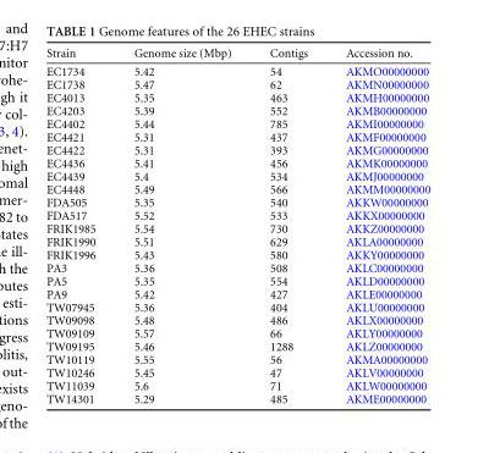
<table><thead><tr><td>Strain</td><td>Genome size (Mbp)</td><td>Contigs</td><td>Accession no.</td></tr></thead><tbody><tr><td>EC1734</td><td>5.42</td><td>54</td><td>AKMO00000000</td></tr><tr><td>EC1738</td><td>5.47</td><td>62</td><td>AKMN00000000</td></tr><tr><td>EC4013</td><td>5.35</td><td>463</td><td>AKMH00000000</td></tr><tr><td>EC4203</td><td>5.39</td><td>552</td><td>AKMB00000000</td></tr><tr><td>EC4402</td><td>5.44</td><td>785</td><td>AKMI00000000</td></tr><tr><td>EC4421</td><td>5.31</td><td>437</td><td>AKMF00000000</td></tr><tr><td>EC4422</td><td>5.31</td><td>393</td><td>AKMG00000000</td></tr><tr><td>EC4436</td><td>5.41</td><td>456</td><td>AKMK00000000</td></tr><tr><td>EC4439</td><td>5.4</td><td>534</td><td>AKMJ00000000</td></tr><tr><td>EC4448</td><td>5.49</td><td>566</td><td>AKMM00000000</td></tr><tr><td>FDA505</td><td>5.35</td><td>540</td><td>AKKW00000000</td></tr><tr><td>FDA517</td><td>5.52</td><td>533</td><td>AKKX00000000</td></tr><tr><td>FRIK1985</td><td>5.54</td><td>730</td><td>AKKZ00000000</td></tr><tr><td>FRIK1990</td><td>5.51</td><td>629</td><td>AKLA00000000</td></tr><tr><td>FRIK1996</td><td>5.43</td><td>580</td><td>AKKY00000000</td></tr><tr><td>PA3</td><td>5.36</td><td>508</td><td>AKLC00000000</td></tr><tr><td>PA5</td><td>5.35</td><td>554</td><td>AKLD00000000</td></tr><tr><td>PA9</td><td>5.42</td><td>427</td><td>AKLE00000000</td></tr><tr><td>TW07945</td><td>5.36</td><td>404</td><td>AKLU00000000</td></tr><tr><td>TW09098</td><td>5.48</td><td>486</td><td>AKLX00000000</td></tr><tr><td>TW09109</td><td>5.57</td><td>66</td><td>AKLY00000000</td></tr><tr><td>TW09195</td><td>5.46</td><td>1288</td><td>AKLZ00000000</td></tr><tr><td>TW10119</td><td>5.55</td><td>56</td><td>AKMA00000000</td></tr><tr><td>TW10246</td><td>5.45</td><td>47</td><td>AKLV00000000</td></tr><tr><td>TW11039</td><td>5.6</td><td>71</td><td>AKLW00000000</td></tr><tr><td>TW14301</td><td>5.29</td><td>485</td><td>AKME00000000</td></tr></tbody></table>